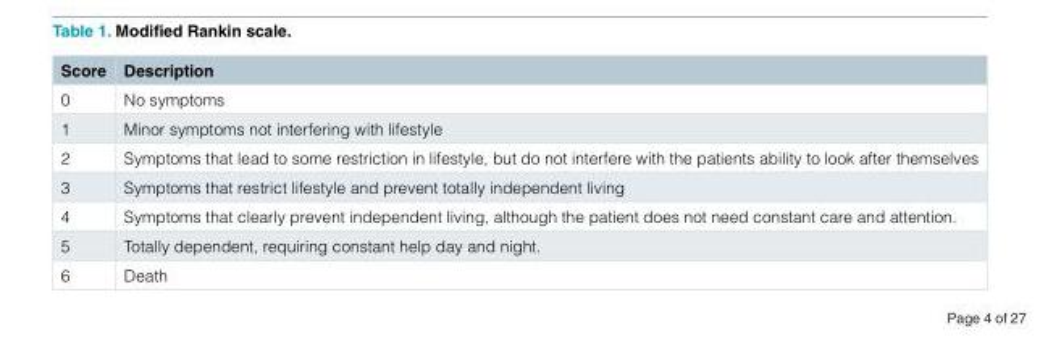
<table><thead><tr><td>Score</td><td>Description</td></tr></thead><tbody><tr><td>0</td><td>No symptoms</td></tr><tr><td>1</td><td>Minor symptoms not interfering with lifestyle</td></tr><tr><td>2</td><td>Symptoms that lead to some restriction in lifestyle, but do not interfere with the patients ability to look after themselves</td></tr><tr><td>3</td><td>Symptoms that restrict lifestyle and prevent totally independent living</td></tr><tr><td>4</td><td>Symptoms that clearly prevent independent living, although the patient does not need constant care and attention.</td></tr><tr><td>5</td><td>Totally dependent, requiring constant help day and night.</td></tr><tr><td>6</td><td>Death</td></tr></tbody></table>